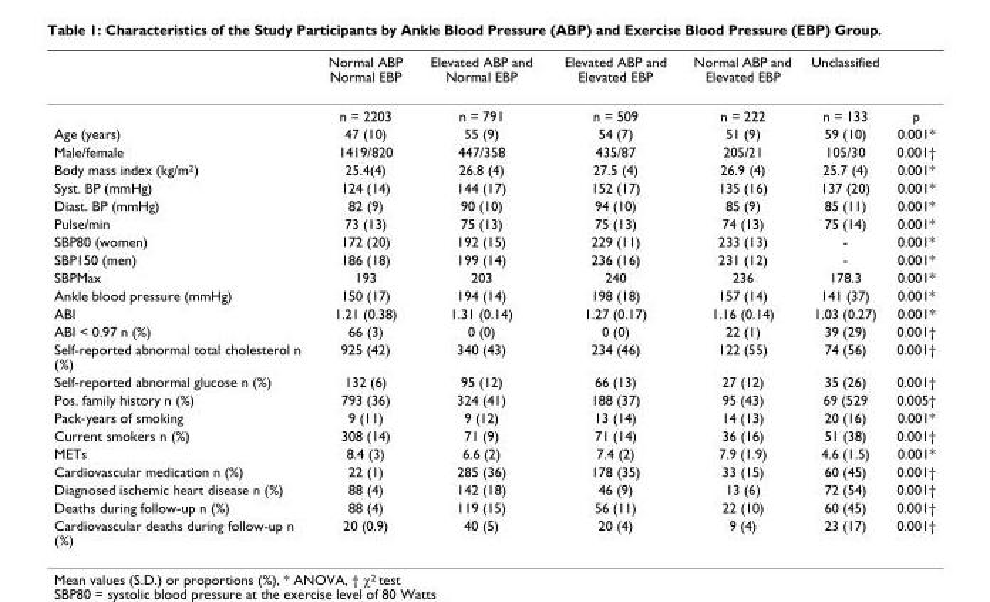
<table><thead><tr><td></td><td>Normal ABP Normal EBP</td><td>Elevated ABP and Normal EBP</td><td>Elevated ABP and Elevated EBP</td><td>Normal ABP and Elevated EBP</td><td>Unclassified</td><td></td></tr></thead><tbody><tr><td></td><td>n = 2203</td><td>n = 791</td><td>n = 509</td><td>n = 222</td><td>n = 133</td><td>p</td></tr><tr><td>Age (years)</td><td>47 (10)</td><td>55 (9)</td><td>54 (7)</td><td>51 (9)</td><td>59 (10)</td><td>0.001*</td></tr><tr><td>Male/female</td><td>1419/820</td><td>447/358</td><td>435/87</td><td>205/21</td><td>105/30</td><td>0.001†</td></tr><tr><td>Body mass index (kg/m<sup>2</sup>)</td><td>25.4(4)</td><td>26.8 (4)</td><td>27.5 (4)</td><td>26.9 (4)</td><td>25.7 (4)</td><td>0.001*</td></tr><tr><td>Syst. BP (mmHg)</td><td>124 (14)</td><td>144 (17)</td><td>152 (17)</td><td>135 (16)</td><td>137 (20)</td><td>0.001*</td></tr><tr><td>Diast. BP (mmHg)</td><td>82 (9)</td><td>90 (10)</td><td>94 (10)</td><td>85 (9)</td><td>85 (11)</td><td>0.001*</td></tr><tr><td>Pulse/min</td><td>73 (13)</td><td>75 (13)</td><td>75 (13)</td><td>74 (13)</td><td>75 (14)</td><td>0.001*</td></tr><tr><td>SBP80 (women)</td><td>172 (20)</td><td>192 (15)</td><td>229 (11)</td><td>233 (13)</td><td>-</td><td>0.001*</td></tr><tr><td>SBP150 (men)</td><td>186 (18)</td><td>199 (14)</td><td>236 (16)</td><td>231 (12)</td><td>-</td><td>0.001*</td></tr><tr><td>SBPMax</td><td>193</td><td>203</td><td>240</td><td>236</td><td>178.3</td><td>0.001*</td></tr><tr><td>Ankle blood pressure (mmHg)</td><td>150 (17)</td><td>194 (14)</td><td>198 (18)</td><td>157 (14)</td><td>141 (37)</td><td>0.001*</td></tr><tr><td>ABI</td><td>1.21 (0.38)</td><td>1.31 (0.14)</td><td>1.27 (0.17)</td><td>1.16 (0.14)</td><td>1.03 (0.27)</td><td>0.001*</td></tr><tr><td>ABI &lt; 0.97 n (%)</td><td>66 (3)</td><td>0 (0)</td><td>0 (0)</td><td>22 (1)</td><td>39 (29)</td><td>0.001†</td></tr><tr><td>Self-reported abnormal total cholesterol n (%)</td><td>925 (42)</td><td>340 (43)</td><td>234 (46)</td><td>122 (55)</td><td>74 (56)</td><td>0.001†</td></tr><tr><td>Self-reported abnormal glucose n (%)</td><td>132 (6)</td><td>95 (12)</td><td>66 (13)</td><td>27 (12)</td><td>35 (26)</td><td>0.001†</td></tr><tr><td>Pos. family history n (%)</td><td>793 (36)</td><td>324 (41)</td><td>188 (37)</td><td>95 (43)</td><td>69 (529</td><td>0.005†</td></tr><tr><td>Pack-years of smoking</td><td>9 (11)</td><td>9 (12)</td><td>13 (14)</td><td>14 (13)</td><td>20 (16)</td><td>0.001*</td></tr><tr><td>Current smokers n (%)</td><td>308 (14)</td><td>71 (9)</td><td>71 (14)</td><td>36 (16)</td><td>51 (38)</td><td>0.001†</td></tr><tr><td>METs</td><td>8.4 (3)</td><td>6.6 (2)</td><td>7.4 (2)</td><td>7.9 (1.9)</td><td>4.6 (1.5)</td><td>0.001*</td></tr><tr><td>Cardiovascular medication n (%)</td><td>22 (1)</td><td>285 (36)</td><td>178 (35)</td><td>33 (15)</td><td>60 (45)</td><td>0.001†</td></tr><tr><td>Diagnosed ischemic heart disease n (%)</td><td>88 (4)</td><td>142 (18)</td><td>46 (9)</td><td>13 (6)</td><td>72 (54)</td><td>0.001†</td></tr><tr><td>Deaths during follow-up n (%)</td><td>88 (4)</td><td>119 (15)</td><td>56 (11)</td><td>22 (10)</td><td>60 (45)</td><td>0.001†</td></tr><tr><td>Cardiovascular deaths during follow-up n (%)</td><td>20 (0.9)</td><td>40 (5)</td><td>20 (4)</td><td>9 (4)</td><td>23 (17)</td><td>0.001†</td></tr></tbody></table>